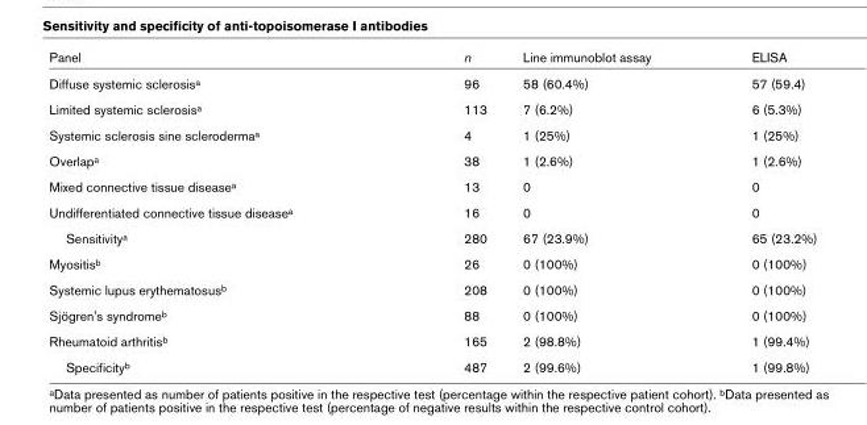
<table><thead><tr><td>Panel</td><td>n</td><td>Line immunoblot assay</td><td>ELISA</td></tr></thead><tbody><tr><td>Diffuse systemic sclerosis<sup>a</sup></td><td>96</td><td>58 (60.4%)</td><td>57 (59.4)</td></tr><tr><td>Limited systemic sclerosis<sup>a</sup></td><td>113</td><td>7 (6.2%)</td><td>6 (5.3%)</td></tr><tr><td>Systemic sclerosis sine scleroderma<sup>a</sup></td><td>4</td><td>1 (25%)</td><td>1 (25%)</td></tr><tr><td>Overlap<sup>a</sup></td><td>38</td><td>1 (2.6%)</td><td>1 (2.6%)</td></tr><tr><td>Mixed connective tissue disease<sup>a</sup></td><td>13</td><td>0</td><td>0</td></tr><tr><td>Undifferentiated connective tissue disease<sup>a</sup></td><td>16</td><td>0</td><td>0</td></tr><tr><td>Sensitivity<sup>a</sup></td><td>280</td><td>67 (23.9%)</td><td>65 (23.2%)</td></tr><tr><td>Myositis<sup>b</sup></td><td>26</td><td>0 (100%)</td><td>0 (100%)</td></tr><tr><td>Systemic lupus erythematosus<sup>b</sup></td><td>208</td><td>0 (100%)</td><td>0 (100%)</td></tr><tr><td>Sjögren&#x27;s syndrome<sup>b</sup></td><td>88</td><td>0 (100%)</td><td>0 (100%)</td></tr><tr><td>Rheumatoid arthritis<sup>b</sup></td><td>165</td><td>2 (98.8%)</td><td>1 (99.4%)</td></tr><tr><td>Specificity<sup>b</sup></td><td>487</td><td>2 (99.6%)</td><td>1 (99.8%)</td></tr></tbody></table>